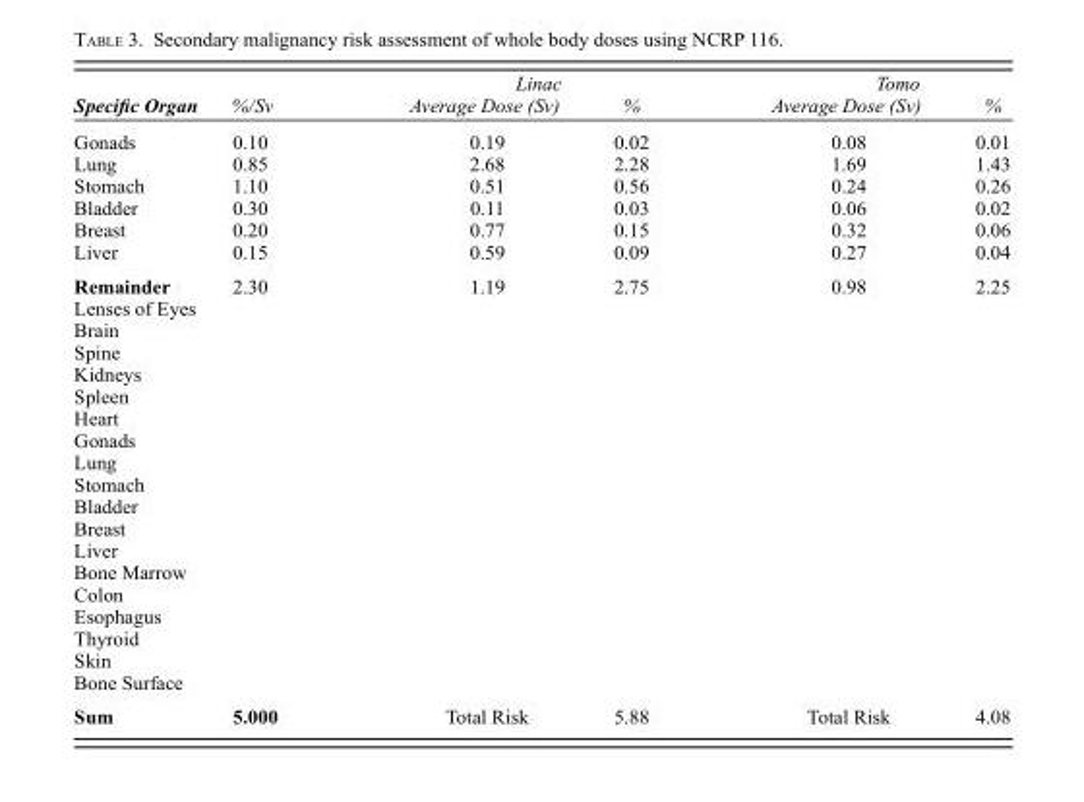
<table><thead><tr><td rowspan="2">Specific Organ</td><td rowspan="2">%/Sv</td><td rowspan="2">Linac Average Dose (Sv)</td><td rowspan="2">%</td><td rowspan="2">Tomo Average Dose (Sv)</td><td rowspan="2">%</td></tr><tr></tr></thead><tbody><tr><td>Gonads</td><td>0.10</td><td>0.19</td><td>0.02</td><td>0.08</td><td>0.01</td></tr><tr><td>Lung</td><td>0.85</td><td>2.68</td><td>2.28</td><td>1.69</td><td>1.43</td></tr><tr><td>Stomach</td><td>1.10</td><td>0.51</td><td>0.56</td><td>0.24</td><td>0.26</td></tr><tr><td>Bladder</td><td>0.30</td><td>0.11</td><td>0.03</td><td>0.06</td><td>0.02</td></tr><tr><td>Breast</td><td>0.20</td><td>0.77</td><td>0.15</td><td>0.32</td><td>0.06</td></tr><tr><td>Liver</td><td>0.15</td><td>0.59</td><td>0.09</td><td>0.27</td><td>0.04</td></tr><tr><td>Remainder</td><td>2.30</td><td>1.19</td><td>2.75</td><td>0.98</td><td>2.25</td></tr><tr><td colspan="6">Lenses of Eyes</td></tr><tr><td colspan="6">Brain</td></tr><tr><td colspan="6">Spine</td></tr><tr><td colspan="6">Kidneys</td></tr><tr><td colspan="6">Spleen</td></tr><tr><td colspan="6">Heart</td></tr><tr><td colspan="6">Gonads</td></tr><tr><td colspan="6">Lung</td></tr><tr><td colspan="6">Stomach</td></tr><tr><td colspan="6">Bladder</td></tr><tr><td colspan="6">Breast</td></tr><tr><td colspan="6">Liver</td></tr><tr><td colspan="6">Bone Marrow</td></tr><tr><td colspan="6">Colon</td></tr><tr><td colspan="6">Esophagus</td></tr><tr><td colspan="6">Thyroid</td></tr><tr><td colspan="6">Skin</td></tr><tr><td colspan="6">Bone Surface</td></tr><tr><td>Sum</td><td>5.000</td><td>Total Risk</td><td>5.88</td><td>Total Risk</td><td>4.08</td></tr></tbody></table>